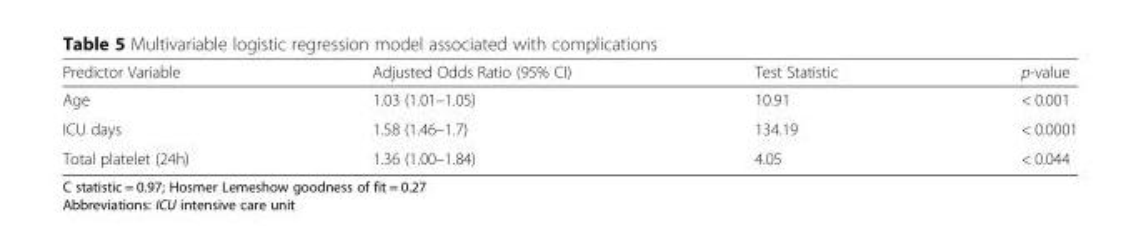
<table><thead><tr><td>Predictor Variable</td><td>Adjusted Odds Ratio (95% CI)</td><td>Test Statistic</td><td>p-value</td></tr></thead><tbody><tr><td>Age</td><td>1.03 (1.01–1.05)</td><td>10.91</td><td>&lt; 0.001</td></tr><tr><td>ICU days</td><td>1.58 (1.46–1.7)</td><td>134.19</td><td>&lt; 0.0001</td></tr><tr><td>Total platelet (24h)</td><td>1.36 (1.00–1.84)</td><td>4.05</td><td>&lt; 0.044</td></tr></tbody></table>